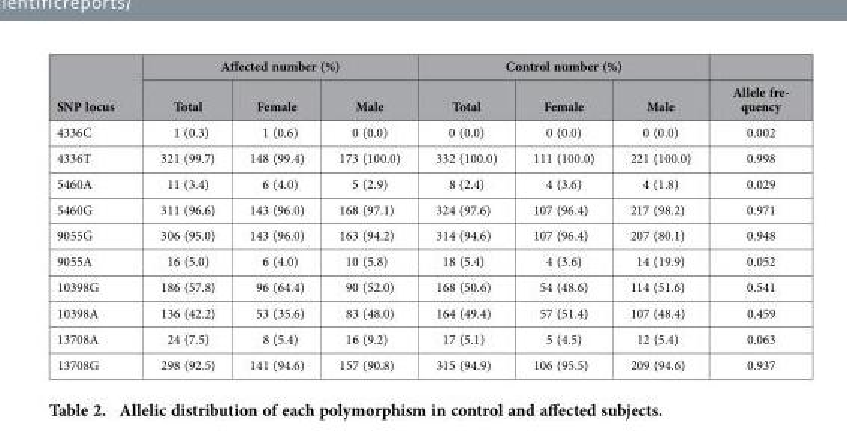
<table><thead><tr><td rowspan="2">SNP locus</td><td colspan="3">Affected number (%)</td><td colspan="3">Control number (%)</td><td rowspan="2">Allele fre- quency</td></tr><tr><td>Total</td><td>Female</td><td>Male</td><td>Total</td><td>Female</td><td>Male</td></tr></thead><tbody><tr><td>4336C</td><td>1 (0.3)</td><td>1 (0.6)</td><td>0 (0.0)</td><td>0 (0.0)</td><td>0 (0.0)</td><td>0 (0.0)</td><td>0.002</td></tr><tr><td>4336T</td><td>321 (99.7)</td><td>148 (99.4)</td><td>173 (100.0)</td><td>332 (100.0)</td><td>111 (100.0)</td><td>221 (100.0)</td><td>0.998</td></tr><tr><td>5460A</td><td>11 (3.4)</td><td>6 (4.0)</td><td>5 (2.9)</td><td>8 (2.4)</td><td>4 (3.6)</td><td>4 (1.8)</td><td>0.029</td></tr><tr><td>5460G</td><td>311 (96.6)</td><td>143 (96.0)</td><td>168 (97.1)</td><td>324 (97.6)</td><td>107 (96.4)</td><td>217 (98.2)</td><td>0.971</td></tr><tr><td>9055G</td><td>306 (95.0)</td><td>143 (96.0)</td><td>163 (94.2)</td><td>314 (94.6)</td><td>107 (96.4)</td><td>207 (80.1)</td><td>0.948</td></tr><tr><td>9055A</td><td>16 (5.0)</td><td>6 (4.0)</td><td>10 (5.8)</td><td>18 (5.4)</td><td>4 (3.6)</td><td>14 (19.9)</td><td>0.052</td></tr><tr><td>10398G</td><td>186 (57.8)</td><td>96 (64.4)</td><td>90 (52.0)</td><td>168 (50.6)</td><td>54 (48.6)</td><td>114 (51.6)</td><td>0.541</td></tr><tr><td>10398A</td><td>136 (42.2)</td><td>53 (35.6)</td><td>83 (48.0)</td><td>164 (49.4)</td><td>57 (51.4)</td><td>107 (48.4)</td><td>0.459</td></tr><tr><td>13708A</td><td>24 (7.5)</td><td>8 (5.4)</td><td>16 (9.2)</td><td>17 (5.1)</td><td>5 (4.5)</td><td>12 (5.4)</td><td>0.063</td></tr><tr><td>13708G</td><td>298 (92.5)</td><td>141 (94.6)</td><td>157 (90.8)</td><td>315 (94.9)</td><td>106 (95.5)</td><td>209 (94.6)</td><td>0.937</td></tr></tbody></table>